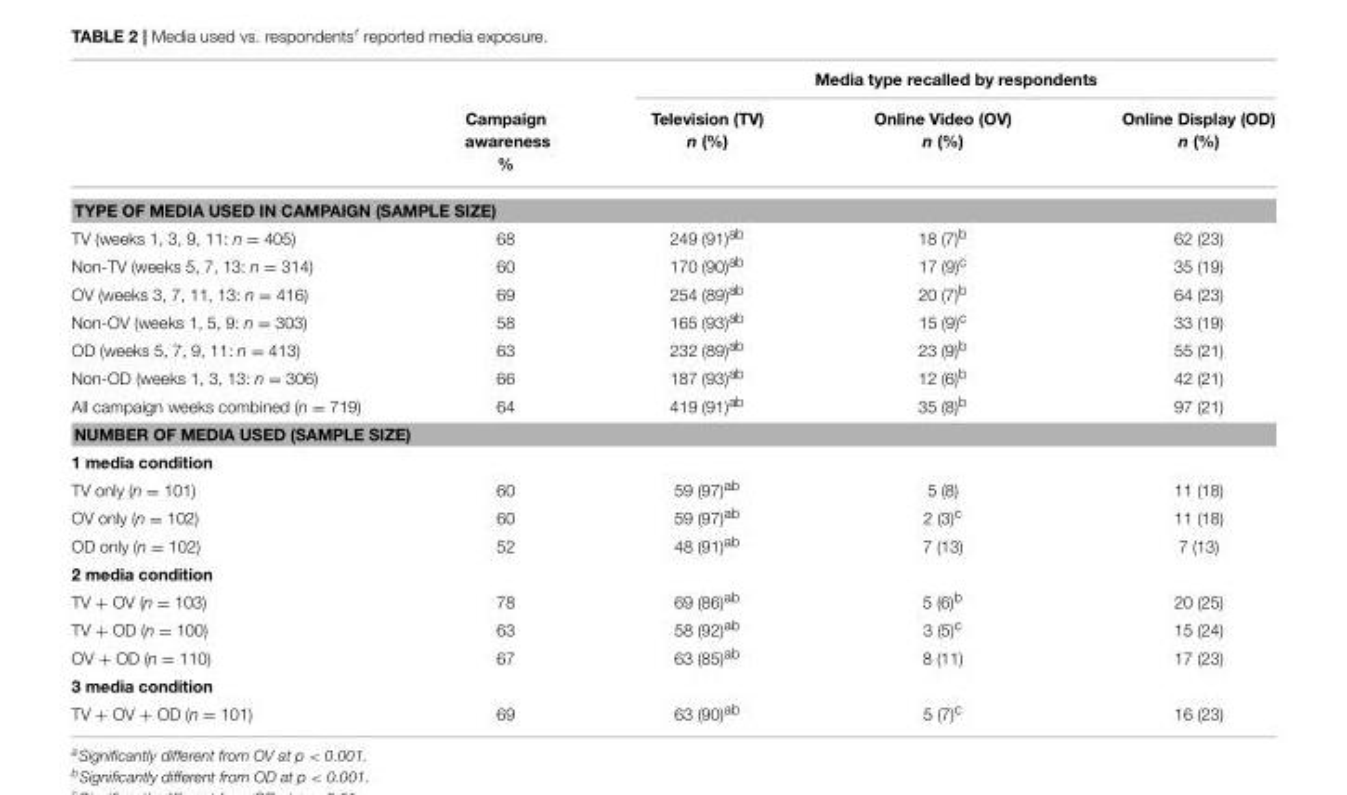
<table><thead><tr><td rowspan="2"></td><td rowspan="2">Campaign awareness %</td><td colspan="3">Media type recalled by respondents</td></tr><tr><td>Television (TV) n (%)</td><td>Online Video (OV) n (%)</td><td>Online Display (OD) n (%)</td></tr></thead><tbody><tr><td colspan="5">TYPE OF MEDIA USED IN CAMPAIGN (SAMPLE SIZE)</td></tr><tr><td>TV (weeks 1, 3, 9, 11: n = 405)</td><td>68</td><td>249 (91)<sup>ab</sup></td><td>18 (7)<sup>b</sup></td><td>62 (23)</td></tr><tr><td>Non-TV (weeks 5, 7, 13: n = 314)</td><td>60</td><td>170 (90)<sup>ab</sup></td><td>17 (9)<sup>c</sup></td><td>35 (19)</td></tr><tr><td>OV (weeks 3, 7, 11, 13: n = 416)</td><td>69</td><td>254 (89)<sup>ab</sup></td><td>20 (7)<sup>b</sup></td><td>64 (23)</td></tr><tr><td>Non-OV (weeks 1, 5, 9: n = 303)</td><td>58</td><td>165 (93)<sup>ab</sup></td><td>15 (9)<sup>c</sup></td><td>33 (19)</td></tr><tr><td>OD (weeks 5, 7, 9, 11: n = 413)</td><td>63</td><td>232 (89)<sup>ab</sup></td><td>23 (9)<sup>b</sup></td><td>55 (21)</td></tr><tr><td>Non-OD (weeks 1, 3, 13: n = 306)</td><td>66</td><td>187 (93)<sup>ab</sup></td><td>12 (6)<sup>b</sup></td><td>42 (21)</td></tr><tr><td>All campaign weeks combined (n = 719)</td><td>64</td><td>419 (91)<sup>ab</sup></td><td>35 (8)<sup>b</sup></td><td>97 (21)</td></tr><tr><td colspan="5">NUMBER OF MEDIA USED (SAMPLE SIZE)</td></tr><tr><td colspan="5">1 media condition</td></tr><tr><td>TV only (n = 101)</td><td>60</td><td>59 (97)<sup>ab</sup></td><td>5 (8)</td><td>11 (18)</td></tr><tr><td>OV only (n = 102)</td><td>60</td><td>59 (97)<sup>ab</sup></td><td>2 (3)<sup>c</sup></td><td>11 (18)</td></tr><tr><td>OD only (n = 102)</td><td>52</td><td>48 (91)<sup>ab</sup></td><td>7 (13)</td><td>7 (13)</td></tr><tr><td colspan="5">2 media condition</td></tr><tr><td>TV + OV (n = 103)</td><td>78</td><td>69 (86)<sup>ab</sup></td><td>5 (6)<sup>b</sup></td><td>20 (25)</td></tr><tr><td>TV + OD (n = 100)</td><td>63</td><td>58 (92)<sup>ab</sup></td><td>3 (5)<sup>c</sup></td><td>15 (24)</td></tr><tr><td>OV + OD (n = 110)</td><td>67</td><td>63 (85)<sup>ab</sup></td><td>8 (11)</td><td>17 (23)</td></tr><tr><td colspan="5">3 media condition</td></tr><tr><td>TV + OV + OD (n = 101)</td><td>69</td><td>63 (90)<sup>ab</sup></td><td>5 (7)<sup>c</sup></td><td>16 (23)</td></tr></tbody></table>